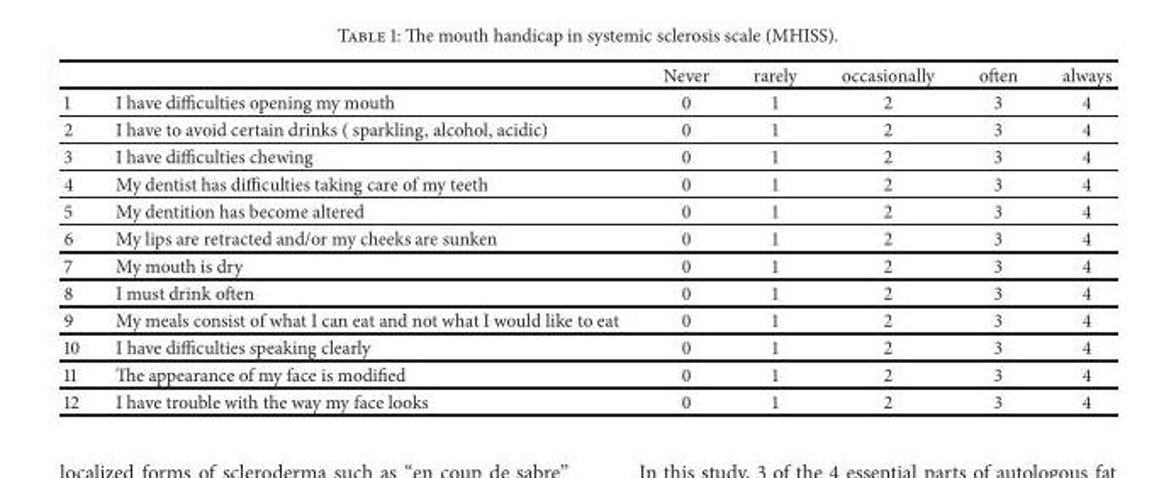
<table><thead><tr><td></td><td></td><td>Never</td><td>rarely</td><td>occasionally</td><td>often</td><td>always</td></tr></thead><tbody><tr><td>1</td><td>I have difficulties opening my mouth</td><td>0</td><td>1</td><td>2</td><td>3</td><td>4</td></tr><tr><td>2</td><td>I have to avoid certain drinks ( sparkling, alcohol, acidic)</td><td>0</td><td>1</td><td>2</td><td>3</td><td>4</td></tr><tr><td>3</td><td>I have difficulties chewing</td><td>0</td><td>1</td><td>2</td><td>3</td><td>4</td></tr><tr><td>4</td><td>My dentist has difficulties taking care of my teeth</td><td>0</td><td>1</td><td>2</td><td>3</td><td>4</td></tr><tr><td>5</td><td>My dentition has become altered</td><td>0</td><td>1</td><td>2</td><td>3</td><td>4</td></tr><tr><td>6</td><td>My lips are retracted and/or my cheeks are sunken</td><td>0</td><td>1</td><td>2</td><td>3</td><td>4</td></tr><tr><td>7</td><td>My mouth is dry</td><td>0</td><td>1</td><td>2</td><td>3</td><td>4</td></tr><tr><td>8</td><td>I must drink often</td><td>0</td><td>1</td><td>2</td><td>3</td><td>4</td></tr><tr><td>9</td><td>My meals consist of what I can eat and not what I would like to eat</td><td>0</td><td>1</td><td>2</td><td>3</td><td>4</td></tr><tr><td>10</td><td>I have difficulties speaking clearly</td><td>0</td><td>1</td><td>2</td><td>3</td><td>4</td></tr><tr><td>11</td><td>The appearance of my face is modified</td><td>0</td><td>1</td><td>2</td><td>3</td><td>4</td></tr><tr><td>12</td><td>I have trouble with the way my face looks</td><td>0</td><td>1</td><td>2</td><td>3</td><td>4</td></tr></tbody></table>